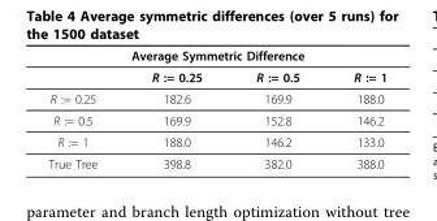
<table><thead><tr><td colspan="4">Average Symmetric Difference</td></tr><tr><td></td><td>R := 0.25</td><td>R := 0.5</td><td>R := 1</td></tr></thead><tbody><tr><td>R := 0.25</td><td>182.6</td><td>169.9</td><td>188.0</td></tr><tr><td>R := 0.5</td><td>169.9</td><td>152.8</td><td>146.2</td></tr><tr><td>R := 1</td><td>188.0</td><td>146.2</td><td>133.0</td></tr><tr><td>True Tree</td><td>398.8</td><td>382.0</td><td>388.0</td></tr></tbody></table>